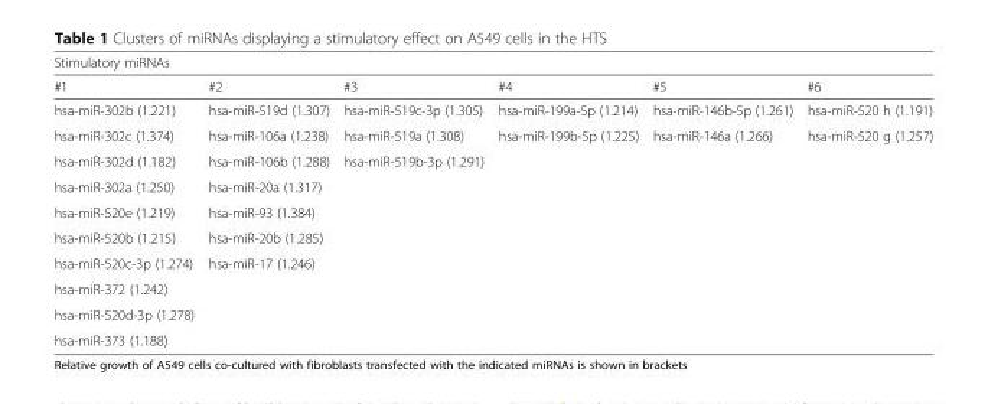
<table><thead><tr><td colspan="6">Stimulatory miRNAs</td></tr><tr><td>#1</td><td>#2</td><td>#3</td><td>#4</td><td>#5</td><td>#6</td></tr></thead><tbody><tr><td>hsa-miR-302b (1.221)</td><td>hsa-miR-519d (1.307)</td><td>hsa-miR-519c-3p (1.305)</td><td>hsa-miR-199a-5p (1.214)</td><td>hsa-miR-146b-5p (1.261)</td><td>hsa-miR-520 h (1.191)</td></tr><tr><td>hsa-miR-302c (1.374)</td><td>hsa-miR-106a (1.238)</td><td>hsa-miR-519a (1.308)</td><td>hsa-miR-199b-5p (1.225)</td><td>hsa-miR-146a (1.266)</td><td>hsa-miR-520 g (1.257)</td></tr><tr><td>hsa-miR-302d (1.182)</td><td>hsa-miR-106b (1.288)</td><td>hsa-miR-519b-3p (1.291)</td><td></td><td></td><td></td></tr><tr><td>hsa-miR-302a (1.250)</td><td>hsa-miR-20a (1.317)</td><td></td><td></td><td></td><td></td></tr><tr><td>hsa-miR-520e (1.219)</td><td>hsa-miR-93 (1.384)</td><td></td><td></td><td></td><td></td></tr><tr><td>hsa-miR-520b (1.215)</td><td>hsa-miR-20b (1.285)</td><td></td><td></td><td></td><td></td></tr><tr><td>hsa-miR-520c-3p (1.274)</td><td>hsa-miR-17 (1.246)</td><td></td><td></td><td></td><td></td></tr><tr><td colspan="6">hsa-miR-372 (1.242)</td></tr><tr><td colspan="6">hsa-miR-520d-3p (1.278)</td></tr><tr><td>hsa-miR-373 (1.188)</td><td></td><td></td><td></td><td></td><td></td></tr></tbody></table>